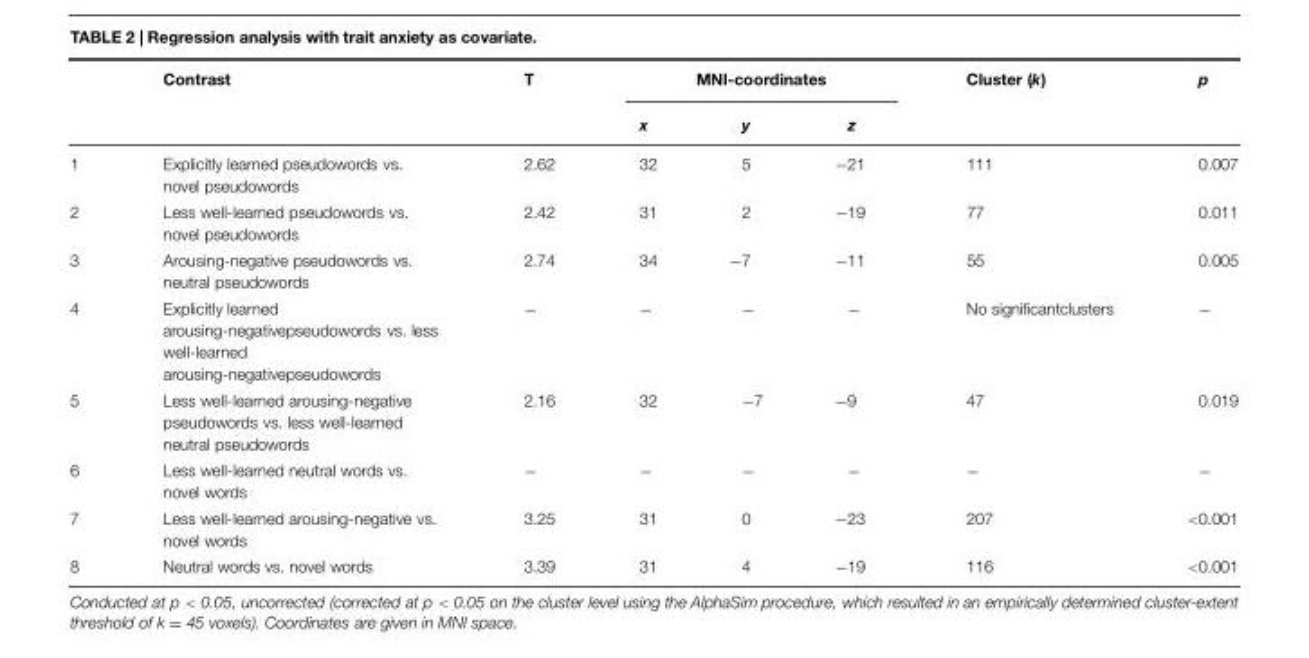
<table><thead><tr><td rowspan="2"></td><td rowspan="2">Contrast</td><td rowspan="2">T</td><td colspan="3">MNI-coordinates</td><td rowspan="2">Cluster (k)</td><td rowspan="2">p</td></tr><tr><td>x</td><td>y</td><td>z</td></tr></thead><tbody><tr><td>1</td><td>Explicitly learned pseudowords vs. novel pseudowords</td><td>2.62</td><td>32</td><td>5</td><td>−21</td><td>111</td><td>0.007</td></tr><tr><td>2</td><td>Less well-learned pseudowords vs. novel pseudowords</td><td>2.42</td><td>31</td><td>2</td><td>−19</td><td>77</td><td>0.011</td></tr><tr><td>3</td><td>Arousing-negative pseudowords vs. neutral pseudowords</td><td>2.74</td><td>34</td><td>−7</td><td>−11</td><td>55</td><td>0.005</td></tr><tr><td>4</td><td>Explicitly learned arousing-negativepseudowords vs. less well-learned arousing-negativepseudowords</td><td>−</td><td>−</td><td>−</td><td>−</td><td>No significantclusters</td><td>−</td></tr><tr><td>5</td><td>Less well-learned arousing-negative pseudowords vs. less well-learned neutral pseudowords</td><td>2.16</td><td>32</td><td>−7</td><td>−9</td><td>47</td><td>0.019</td></tr><tr><td>6</td><td>Less well-learned neutral words vs. novel words</td><td>−</td><td>−</td><td>−</td><td>−</td><td>−</td><td>−</td></tr><tr><td>7</td><td>Less well-learned arousing-negative vs. novel words</td><td>3.25</td><td>31</td><td>0</td><td>−23</td><td>207</td><td>&lt;0.001</td></tr><tr><td>8</td><td>Neutral words vs. novel words</td><td>3.39</td><td>31</td><td>4</td><td>−19</td><td>116</td><td>&lt;0.001</td></tr></tbody></table>